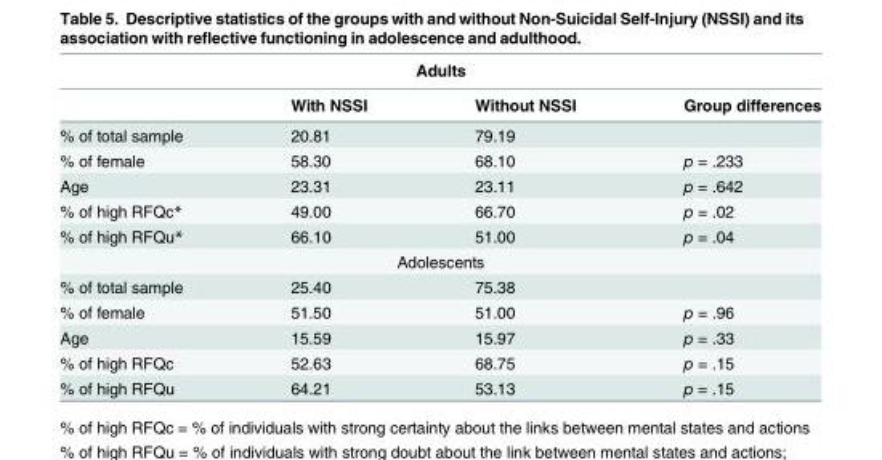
<table><thead><tr><td colspan="4">Adults</td></tr><tr><td></td><td>With NSSI</td><td>Without NSSI</td><td>Group differences</td></tr></thead><tbody><tr><td>% of total sample</td><td>20.81</td><td>79.19</td><td></td></tr><tr><td>% of female</td><td>58.30</td><td>68.10</td><td>p = .233</td></tr><tr><td>Age</td><td>23.31</td><td>23.11</td><td>p = .642</td></tr><tr><td>% of high RFQc*</td><td>49.00</td><td>66.70</td><td>p = .02</td></tr><tr><td>% of high RFQu*</td><td>66.10</td><td>51.00</td><td>p = .04</td></tr><tr><td colspan="4">Adolescents</td></tr><tr><td>% of total sample</td><td>25.40</td><td>75.38</td><td></td></tr><tr><td>% of female</td><td>51.50</td><td>51.00</td><td>p = .96</td></tr><tr><td>Age</td><td>15.59</td><td>15.97</td><td>p = .33</td></tr><tr><td>% of high RFQc</td><td>52.63</td><td>68.75</td><td>p = .15</td></tr><tr><td>% of high RFQu</td><td>64.21</td><td>53.13</td><td>p = .15</td></tr></tbody></table>